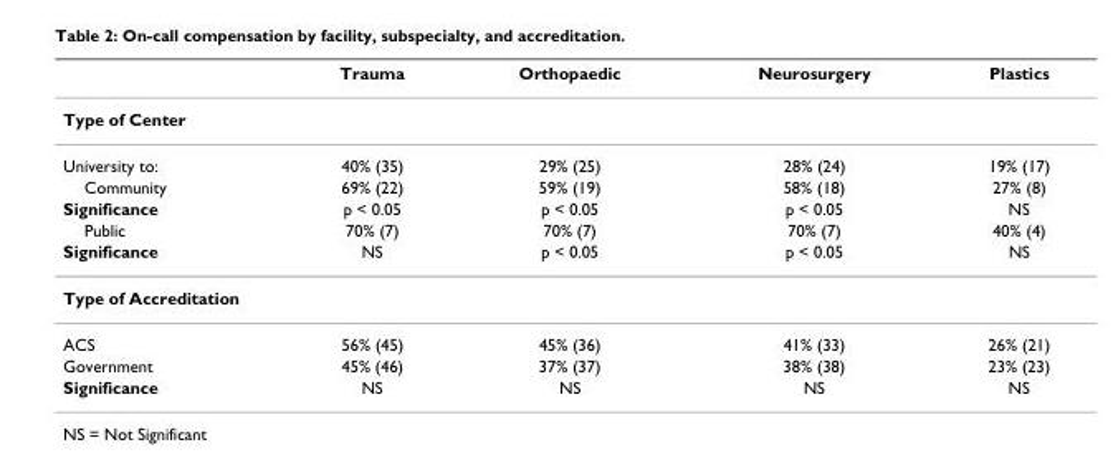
<table><thead><tr><td></td><td>Trauma</td><td>Orthopaedic</td><td>Neurosurgery</td><td>Plastics</td></tr></thead><tbody><tr><td colspan="5">Type of Center</td></tr><tr><td>University to:</td><td>40% (35)</td><td>29% (25)</td><td>28% (24)</td><td>19% (17)</td></tr><tr><td>Community</td><td>69% (22)</td><td>59% (19)</td><td>58% (18)</td><td>27% (8)</td></tr><tr><td>Significance</td><td>p &lt; 0.05</td><td>p &lt; 0.05</td><td>p &lt; 0.05</td><td>NS</td></tr><tr><td>Public</td><td>70% (7)</td><td>70% (7)</td><td>70% (7)</td><td>40% (4)</td></tr><tr><td>Significance</td><td>NS</td><td>p &lt; 0.05</td><td>p &lt; 0.05</td><td>NS</td></tr><tr><td colspan="5">Type of Accreditation</td></tr><tr><td>ACS</td><td>56% (45)</td><td>45% (36)</td><td>41% (33)</td><td>26% (21)</td></tr><tr><td>Government</td><td>45% (46)</td><td>37% (37)</td><td>38% (38)</td><td>23% (23)</td></tr><tr><td>Significance</td><td>NS</td><td>NS</td><td>NS</td><td>NS</td></tr></tbody></table>